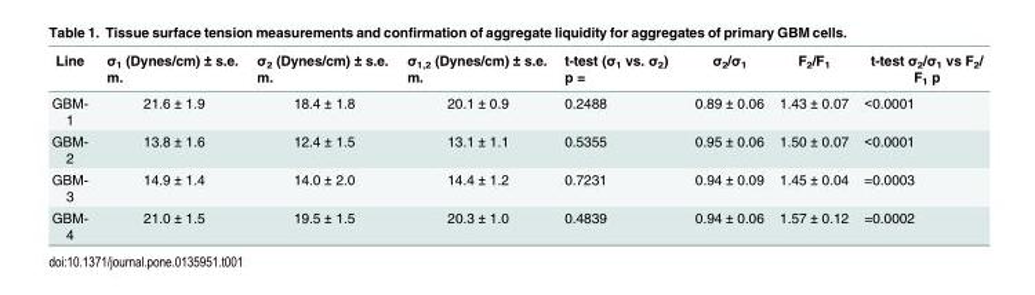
<table><thead><tr><td>Line</td><td>σ<sub>1</sub> (Dynes/cm) ± s.e. m.</td><td>σ<sub>2</sub> (Dynes/cm) ± s.e. m.</td><td>σ<sub>1,2</sub> (Dynes/cm) ± s.e. m.</td><td>t-test (σ<sub>1</sub> vs. σ<sub>2</sub>) p =</td><td>σ<sub>2</sub>/σ<sub>1</sub></td><td>F<sub>2</sub>/F<sub>1</sub></td><td>t-test σ<sub>2</sub>/σ<sub>1</sub> vs F<sub>2</sub>/ F<sub>1</sub> p</td></tr></thead><tbody><tr><td>GBM- 1</td><td>21.6 ± 1.9</td><td>18.4 ± 1.8</td><td>20.1 ± 0.9</td><td>0.2488</td><td>0.89 ± 0.06</td><td>1.43 ± 0.07</td><td>&lt;0.0001</td></tr><tr><td>GBM- 2</td><td>13.8 ± 1.6</td><td>12.4 ± 1.5</td><td>13.1 ± 1.1</td><td>0.5355</td><td>0.95 ± 0.06</td><td>1.50 ± 0.07</td><td>&lt;0.0001</td></tr><tr><td>GBM- 3</td><td>14.9 ± 1.4</td><td>14.0 ± 2.0</td><td>14.4 ± 1.2</td><td>0.7231</td><td>0.94 ± 0.09</td><td>1.45 ± 0.04</td><td>=0.0003</td></tr><tr><td>GBM- 4</td><td>21.0 ± 1.5</td><td>19.5 ± 1.5</td><td>20.3 ± 1.0</td><td>0.4839</td><td>0.94 ± 0.06</td><td>1.57 ± 0.12</td><td>=0.0002</td></tr></tbody></table>